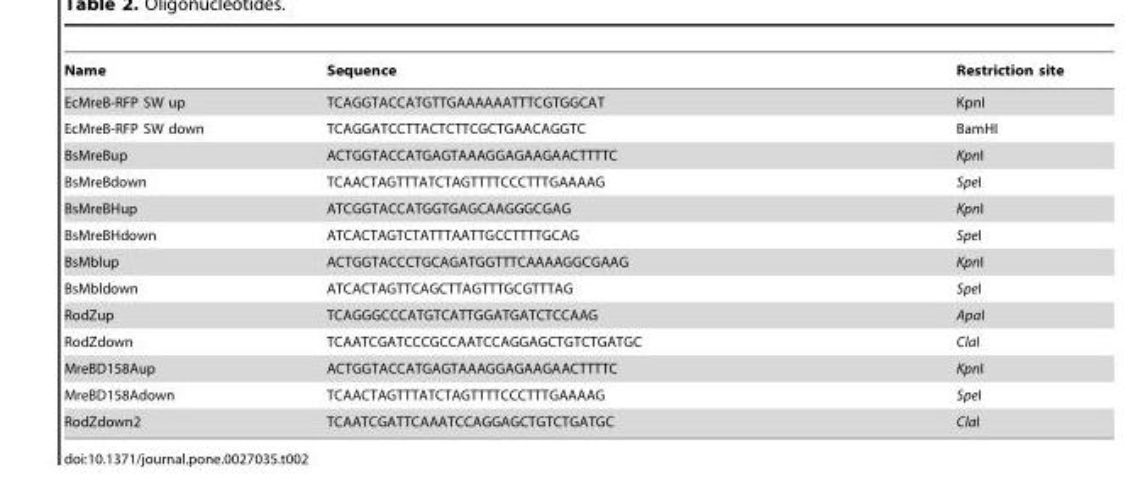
<table><thead><tr><td>Name</td><td>Sequence</td><td>Restriction site</td></tr></thead><tbody><tr><td>EcMreB-RFP SW up</td><td>TCAGGTACCATGTTGAAAAAATTTCGTGGCAT</td><td>KpnI</td></tr><tr><td>EcMreB-RFP SW down</td><td>TCAGGATCCTTACTCTTCGCTGAACAGGTC</td><td>BamHI</td></tr><tr><td>BsMreBup</td><td>ACTGGTACCATGAGTAAAGGAGAAGAACTTTTC</td><td>KpnI</td></tr><tr><td>BsMreBdown</td><td>TCAACTAGTTTATCTAGTTTTCCCTTTGAAAAG</td><td>SpeI</td></tr><tr><td>BsMreBHup</td><td>ATCGGTACCATGGTGAGCAAGGGCGAG</td><td>KpnI</td></tr><tr><td>BsMreBHdown</td><td>ATCACTAGTCTATTTAATTGCCTTTTGCAG</td><td>SpeI</td></tr><tr><td>BsMblup</td><td>ACTGGTACCCTGCAGATGGTTTCAAAAGGCGAAG</td><td>KpnI</td></tr><tr><td>BsMbldown</td><td>ATCACTAGTTCAGCTTAGTTTGCGTTTAG</td><td>SpeI</td></tr><tr><td>RodZup</td><td>TCAGGGCCCATGTCATTGGATGATCTCCAAG</td><td>ApaI</td></tr><tr><td>RodZdown</td><td>TCAATCGATCCCGCCAATCCAGGAGCTGTCTGATGC</td><td>ClaI</td></tr><tr><td>MreBD158Aup</td><td>ACTGGTACCATGAGTAAAGGAGAAGAACTTTTC</td><td>KpnI</td></tr><tr><td>MreBD158Adown</td><td>TCAACTAGTTTATCTAGTTTTCCCTTTGAAAAG</td><td>SpeI</td></tr><tr><td>RodZdown2</td><td>TCAATCGATTCAAATCCAGGAGCTGTCTGATGC</td><td>ClaI</td></tr></tbody></table>